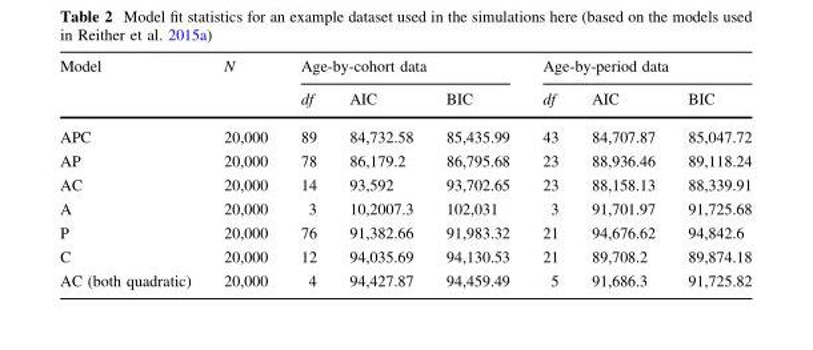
<table><thead><tr><td rowspan="2">Model</td><td rowspan="2">N</td><td colspan="3">Age-by-cohort data</td><td colspan="3">Age-by-period data</td></tr><tr><td>df</td><td>AIC</td><td>BIC</td><td>df</td><td>AIC</td><td>BIC</td></tr></thead><tbody><tr><td>APC</td><td>20,000</td><td>89</td><td>84,732.58</td><td>85,435.99</td><td>43</td><td>84,707.87</td><td>85,047.72</td></tr><tr><td>AP</td><td>20,000</td><td>78</td><td>86,179.2</td><td>86,795.68</td><td>23</td><td>88,936.46</td><td>89,118.24</td></tr><tr><td>AC</td><td>20,000</td><td>14</td><td>93,592</td><td>93,702.65</td><td>23</td><td>88,158.13</td><td>88,339.91</td></tr><tr><td>A</td><td>20,000</td><td>3</td><td>10,2007.3</td><td>102,031</td><td>3</td><td>91,701.97</td><td>91,725.68</td></tr><tr><td>P</td><td>20,000</td><td>76</td><td>91,382.66</td><td>91,983.32</td><td>21</td><td>94,676.62</td><td>94,842.6</td></tr><tr><td>C</td><td>20,000</td><td>12</td><td>94,035.69</td><td>94,130.53</td><td>21</td><td>89,708.2</td><td>89,874.18</td></tr><tr><td>AC (both quadratic)</td><td>20,000</td><td>4</td><td>94,427.87</td><td>94,459.49</td><td>5</td><td>91,686.3</td><td>91,725.82</td></tr></tbody></table>